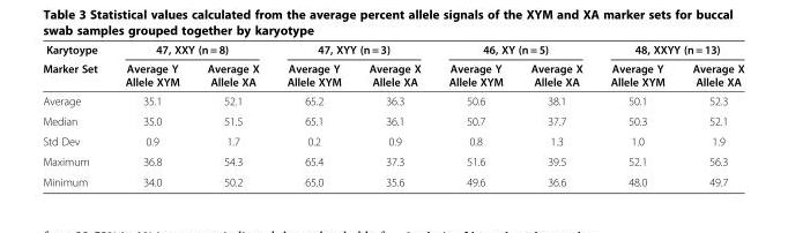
<table><thead><tr><td rowspan="2">Karytoype Marker Set</td><td colspan="2">47, XXY (n = 8)</td><td colspan="2">47, XYY (n = 3)</td><td colspan="2">46, XY (n = 5)</td><td colspan="2">48, XXYY (n = 13)</td></tr><tr><td>Average Y Allele XYM</td><td>Average X Allele XA</td><td>Average Y Allele XYM</td><td>Average X Allele XA</td><td>Average Y Allele XYM</td><td>Average X Allele XA</td><td>Average Y Allele XYM</td><td>Average X Allele XA</td></tr></thead><tbody><tr><td>Average</td><td>35.1</td><td>52.1</td><td>65.2</td><td>36.3</td><td>50.6</td><td>38.1</td><td>50.1</td><td>52.3</td></tr><tr><td>Median</td><td>35.0</td><td>51.5</td><td>65.1</td><td>36.1</td><td>50.7</td><td>37.7</td><td>50.3</td><td>52.1</td></tr><tr><td>Std Dev</td><td>0.9</td><td>1.7</td><td>0.2</td><td>0.9</td><td>0.8</td><td>1.3</td><td>1.0</td><td>1.9</td></tr><tr><td>Maximum</td><td>36.8</td><td>54.3</td><td>65.4</td><td>37.3</td><td>51.6</td><td>39.5</td><td>52.1</td><td>56.3</td></tr><tr><td>Minimum</td><td>34.0</td><td>50.2</td><td>65.0</td><td>35.6</td><td>49.6</td><td>36.6</td><td>48.0</td><td>49.7</td></tr></tbody></table>